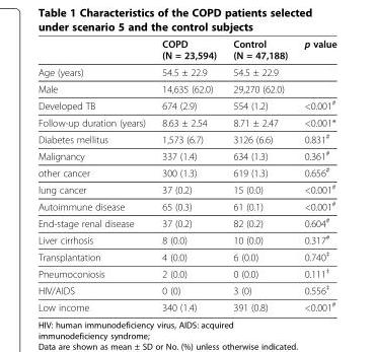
<table><thead><tr><td></td><td>COPD (N = 23,594)</td><td>Control (N = 47,188)</td><td>p value</td></tr></thead><tbody><tr><td>Age (years)</td><td>54.5 ± 22.9</td><td>54.5 ± 22.9</td><td></td></tr><tr><td>Male</td><td>14,635 (62.0)</td><td>29,270 (62.0)</td><td></td></tr><tr><td>Developed TB</td><td>674 (2.9)</td><td>554 (1.2)</td><td>&lt;0.001<sup>#</sup></td></tr><tr><td>Follow-up duration (years)</td><td>8.63 ± 2.54</td><td>8.71 ± 2.47</td><td>&lt;0.001*</td></tr><tr><td>Diabetes mellitus</td><td>1,573 (6.7)</td><td>3126 (6.6)</td><td>0.831<sup>#</sup></td></tr><tr><td>Malignancy</td><td>337 (1.4)</td><td>634 (1.3)</td><td>0.361<sup>#</sup></td></tr><tr><td>other cancer</td><td>300 (1.3)</td><td>619 (1.3)</td><td>0.656<sup>#</sup></td></tr><tr><td>lung cancer</td><td>37 (0.2)</td><td>15 (0.0)</td><td>&lt;0.001<sup>#</sup></td></tr><tr><td>Autoimmune disease</td><td>65 (0.3)</td><td>61 (0.1)</td><td>&lt;0.001<sup>#</sup></td></tr><tr><td>End-stage renal disease</td><td>37 (0.2)</td><td>82 (0.2)</td><td>0.604<sup>#</sup></td></tr><tr><td>Liver cirrhosis</td><td>8 (0.0)</td><td>10 (0.0)</td><td>0.317<sup>#</sup></td></tr><tr><td>Transplantation</td><td>4 (0.0)</td><td>6 (0.0)</td><td>0.740<sup>‡</sup></td></tr><tr><td>Pneumoconiosis</td><td>2 (0.0)</td><td>0 (0.0)</td><td>0.111<sup>‡</sup></td></tr><tr><td>HIV/AIDS</td><td>0 (0)</td><td>3 (0)</td><td>0.556<sup>‡</sup></td></tr><tr><td>Low income</td><td>340 (1.4)</td><td>391 (0.8)</td><td>&lt;0.001<sup>#</sup></td></tr></tbody></table>